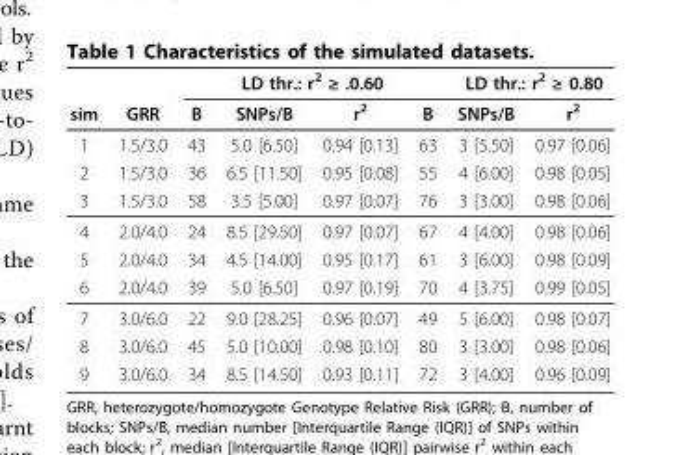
<table><thead><tr><td rowspan="2">sim</td><td rowspan="2">GRR</td><td rowspan="2">B</td><td colspan="2">LD thr.: r<sup>2</sup> ≥ .0.60</td><td rowspan="2">B</td><td colspan="2">LD thr.: r<sup>2</sup> ≥ 0.80</td></tr><tr><td>SNPs/B</td><td>r<sup>2</sup></td><td>SNPs/B</td><td>r<sup>2</sup></td></tr></thead><tbody><tr><td>1</td><td>1.5/3.0</td><td>43</td><td>5.0 [6.50]</td><td>0.94 [0.13]</td><td>63</td><td>3 [5.50]</td><td>0.97 [0.06]</td></tr><tr><td>2</td><td>1.5/3.0</td><td>36</td><td>6.5 [11.50]</td><td>0.95 [0.08]</td><td>55</td><td>4 [6.00]</td><td>0.98 [0.05]</td></tr><tr><td>3</td><td>1.5/3.0</td><td>58</td><td>3.5 [5.00]</td><td>0.97 [0.07]</td><td>76</td><td>3 [3.00]</td><td>0.98 [0.06]</td></tr><tr><td>4</td><td>2.0/4.0</td><td>24</td><td>8.5 [29.50]</td><td>0.97 [0.07]</td><td>67</td><td>4 [4.00]</td><td>0.98 [0.06]</td></tr><tr><td>5</td><td>2.0/4.0</td><td>34</td><td>4.5 [14.00]</td><td>0.95 [0.17]</td><td>61</td><td>3 [6.00]</td><td>0.98 [0.09]</td></tr><tr><td>6</td><td>2.0/4.0</td><td>39</td><td>5.0 [6.50]</td><td>0.97 [0.19]</td><td>70</td><td>4 [3.75]</td><td>0.99 [0.05]</td></tr><tr><td>7</td><td>3.0/6.0</td><td>22</td><td>9.0 [28.25]</td><td>0.96 [0.07]</td><td>49</td><td>5 [6.00]</td><td>0.98 [0.07]</td></tr><tr><td>8</td><td>3.0/6.0</td><td>45</td><td>5.0 [10.00]</td><td>0.98 [0.10]</td><td>80</td><td>3 [3.00]</td><td>0.98 [0.06]</td></tr><tr><td>9</td><td>3.0/6.0</td><td>34</td><td>8.5 [14.50]</td><td>0.93 [0.11]</td><td>72</td><td>3 [4.00]</td><td>0.96 [0.09]</td></tr></tbody></table>